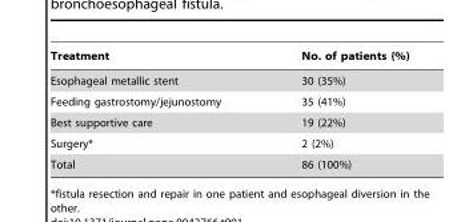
<table><thead><tr><td>Treatment</td><td>No. of patients (%)</td></tr></thead><tbody><tr><td>Esophageal metallic stent</td><td>30 (35%)</td></tr><tr><td>Feeding gastrostomy/jejunostomy</td><td>35 (41%)</td></tr><tr><td>Best supportive care</td><td>19 (22%)</td></tr><tr><td>Surgery*</td><td>2 (2%)</td></tr><tr><td>Total</td><td>86 (100%)</td></tr></tbody></table>